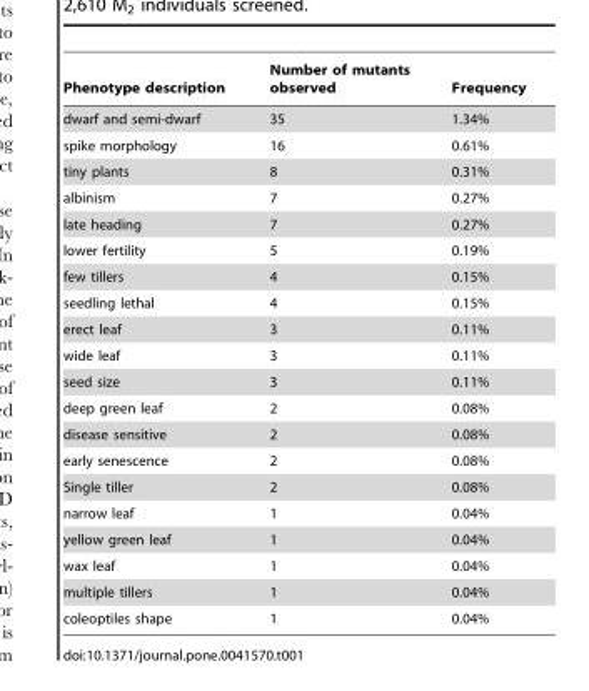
<table><thead><tr><td>Phenotype description</td><td>Number of mutants observed</td><td>Frequency</td></tr></thead><tbody><tr><td>dwarf and semi-dwarf</td><td>35</td><td>1.34%</td></tr><tr><td>spike morphology</td><td>16</td><td>0.61%</td></tr><tr><td>tiny plants</td><td>8</td><td>0.31%</td></tr><tr><td>albinism</td><td>7</td><td>0.27%</td></tr><tr><td>late heading</td><td>7</td><td>0.27%</td></tr><tr><td>lower fertility</td><td>5</td><td>0.19%</td></tr><tr><td>few tillers</td><td>4</td><td>0.15%</td></tr><tr><td>seedling lethal</td><td>4</td><td>0.15%</td></tr><tr><td>erect leaf</td><td>3</td><td>0.11%</td></tr><tr><td>wide leaf</td><td>3</td><td>0.11%</td></tr><tr><td>seed size</td><td>3</td><td>0.11%</td></tr><tr><td>deep green leaf</td><td>2</td><td>0.08%</td></tr><tr><td>disease sensitive</td><td>2</td><td>0.08%</td></tr><tr><td>early senescence</td><td>2</td><td>0.08%</td></tr><tr><td>Single tiller</td><td>2</td><td>0.08%</td></tr><tr><td>narrow leaf</td><td>1</td><td>0.04%</td></tr><tr><td>yellow green leaf</td><td>1</td><td>0.04%</td></tr><tr><td>wax leaf</td><td>1</td><td>0.04%</td></tr><tr><td>multiple tillers</td><td>1</td><td>0.04%</td></tr><tr><td>coleoptiles shape</td><td>1</td><td>0.04%</td></tr></tbody></table>